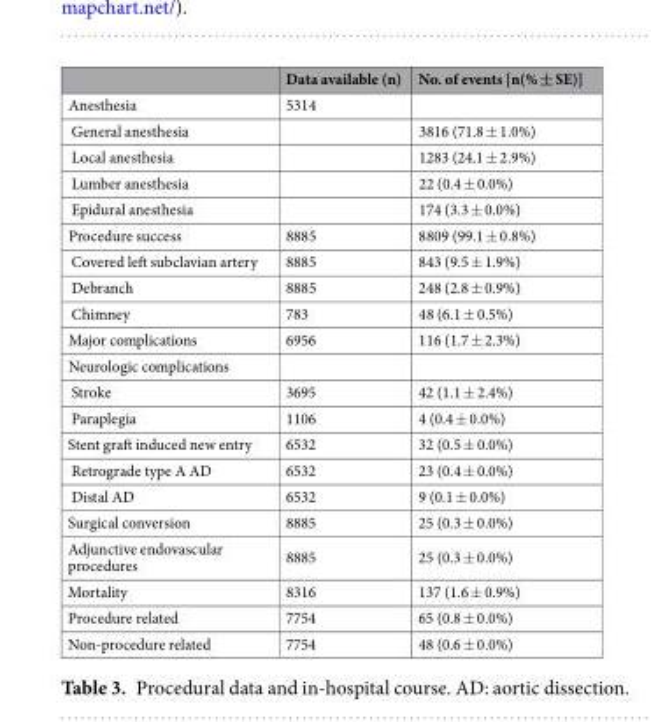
<table><thead><tr><td></td><td>Data available (n)</td><td>No. of events [n(% ± SE)]</td></tr></thead><tbody><tr><td>Anesthesia</td><td>5314</td><td></td></tr><tr><td>General anesthesia</td><td></td><td>3816 (71.8 ± 1.0%)</td></tr><tr><td>Local anesthesia</td><td></td><td>1283 (24.1 ± 2.9%)</td></tr><tr><td>Lumber anesthesia</td><td></td><td>22 (0.4 ± 0.0%)</td></tr><tr><td>Epidural anesthesia</td><td></td><td>174 (3.3 ± 0.0%)</td></tr><tr><td>Procedure success</td><td>8885</td><td>8809 (99.1 ± 0.8%)</td></tr><tr><td>Covered left subclavian artery</td><td>8885</td><td>843 (9.5 ± 1.9%)</td></tr><tr><td>Debranch</td><td>8885</td><td>248 (2.8 ± 0.9%)</td></tr><tr><td>Chimney</td><td>783</td><td>48 (6.1 ± 0.5%)</td></tr><tr><td>Major complications</td><td>6956</td><td>116 (1.7 ± 2.3%)</td></tr><tr><td colspan="3">Neurologic complications</td></tr><tr><td>Stroke</td><td>3695</td><td>42 (1.1 ± 2.4%)</td></tr><tr><td>Paraplegia</td><td>1106</td><td>4 (0.4 ± 0.0%)</td></tr><tr><td>Stent graft induced new entry</td><td>6532</td><td>32 (0.5 ± 0.0%)</td></tr><tr><td>Retrograde type A AD</td><td>6532</td><td>23 (0.4 ± 0.0%)</td></tr><tr><td>Distal AD</td><td>6532</td><td>9 (0.1 ± 0.0%)</td></tr><tr><td>Surgical conversion</td><td>8885</td><td>25 (0.3 ± 0.0%)</td></tr><tr><td>Adjunctive endovascular procedures</td><td>8885</td><td>25 (0.3 ± 0.0%)</td></tr><tr><td>Mortality</td><td>8316</td><td>137 (1.6 ± 0.9%)</td></tr><tr><td>Procedure related</td><td>7754</td><td>65 (0.8 ± 0.0%)</td></tr><tr><td>Non-procedure related</td><td>7754</td><td>48 (0.6 ± 0.0%)</td></tr></tbody></table>